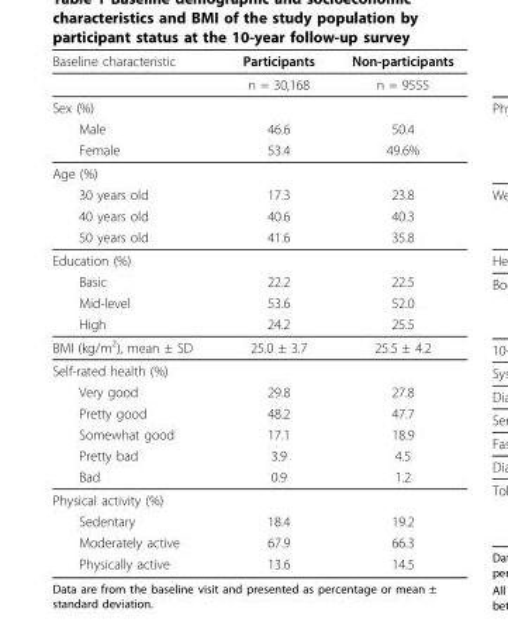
<table><thead><tr><td>Baseline characteristic</td><td>Participants</td><td>Non-participants</td></tr></thead><tbody><tr><td></td><td>n = 30,168</td><td>n = 9555</td></tr><tr><td colspan="3">Sex (%)</td></tr><tr><td>Male</td><td>46.6</td><td>50.4</td></tr><tr><td>Female</td><td>53.4</td><td>49.6%</td></tr><tr><td colspan="3">Age (%)</td></tr><tr><td>30 years old</td><td>17.3</td><td>23.8</td></tr><tr><td>40 years old</td><td>40.6</td><td>40.3</td></tr><tr><td>50 years old</td><td>41.6</td><td>35.8</td></tr><tr><td colspan="3">Education (%)</td></tr><tr><td>Basic</td><td>22.2</td><td>22.5</td></tr><tr><td>Mid-level</td><td>53.6</td><td>52.0</td></tr><tr><td>High</td><td>24.2</td><td>25.5</td></tr><tr><td>BMI (kg/m<sup>2</sup>), mean ± SD</td><td>25.0 ± 3.7</td><td>25.5 ± 4.2</td></tr><tr><td colspan="3">Self-rated health (%)</td></tr><tr><td>Very good</td><td>29.8</td><td>27.8</td></tr><tr><td>Pretty good</td><td>48.2</td><td>47.7</td></tr><tr><td>Somewhat good</td><td>17.1</td><td>18.9</td></tr><tr><td>Pretty bad</td><td>3.9</td><td>4.5</td></tr><tr><td>Bad</td><td>0.9</td><td>1.2</td></tr><tr><td colspan="3">Physical activity (%)</td></tr><tr><td>Sedentary</td><td>18.4</td><td>19.2</td></tr><tr><td>Moderately active</td><td>67.9</td><td>66.3</td></tr><tr><td>Physically active</td><td>13.6</td><td>14.5</td></tr></tbody></table>